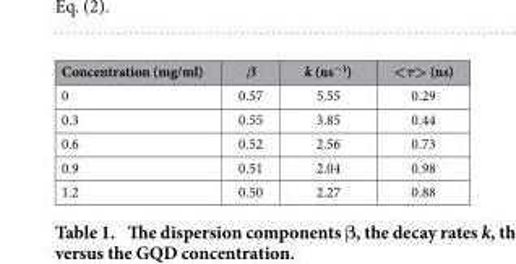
<table><thead><tr><td>Concentration (mg/ml)</td><td>β</td><td>k (ns<sup>−1</sup>)</td><td>&lt;τ&gt; (ns)</td></tr></thead><tbody><tr><td>0</td><td>0.57</td><td>5.55</td><td>0.29</td></tr><tr><td>0.3</td><td>0.55</td><td>3.85</td><td>0.44</td></tr><tr><td>0.6</td><td>0.52</td><td>2.56</td><td>0.73</td></tr><tr><td>0.9</td><td>0.51</td><td>2.04</td><td>0.98</td></tr><tr><td>1.2</td><td>0.50</td><td>2.27</td><td>0.88</td></tr></tbody></table>